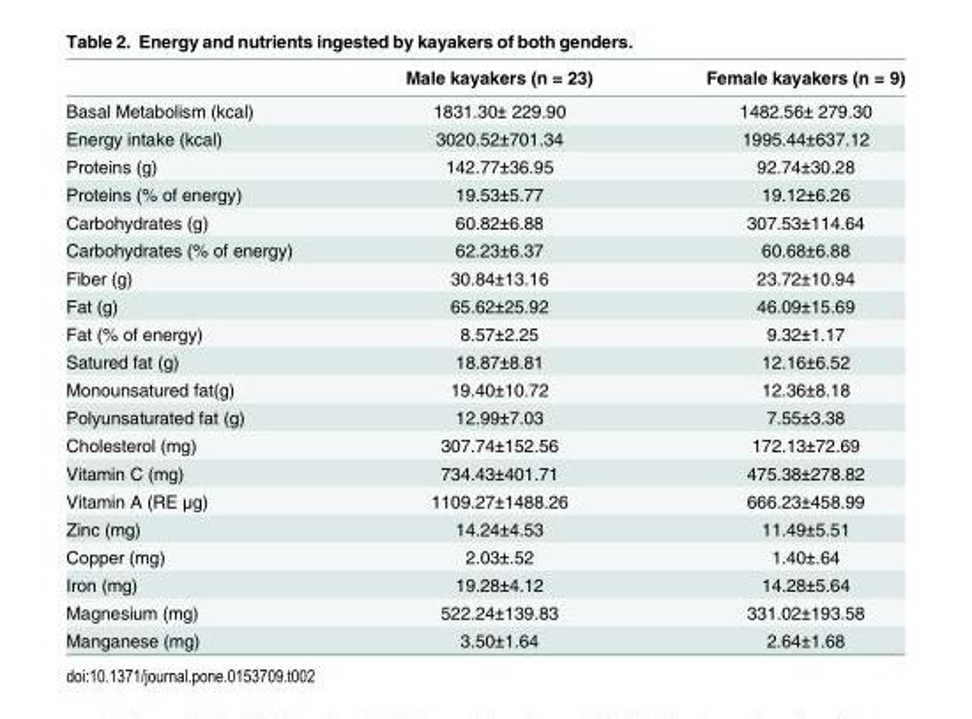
<table><thead><tr><td></td><td>Male kayakers (n = 23)</td><td>Female kayakers (n = 9)</td></tr></thead><tbody><tr><td>Basal Metabolism (kcal)</td><td>1831.30± 229.90</td><td>1482.56± 279.30</td></tr><tr><td>Energy intake (kcal)</td><td>3020.52±701.34</td><td>1995.44±637.12</td></tr><tr><td>Proteins (g)</td><td>142.77±36.95</td><td>92.74±30.28</td></tr><tr><td>Proteins (% of energy)</td><td>19.53±5.77</td><td>19.12±6.26</td></tr><tr><td>Carbohydrates (g)</td><td>60.82±6.88</td><td>307.53±114.64</td></tr><tr><td>Carbohydrates (% of energy)</td><td>62.23±6.37</td><td>60.68±6.88</td></tr><tr><td>Fiber (g)</td><td>30.84±13.16</td><td>23.72±10.94</td></tr><tr><td>Fat (g)</td><td>65.62±25.92</td><td>46.09±15.69</td></tr><tr><td>Fat (% of energy)</td><td>8.57±2.25</td><td>9.32±1.17</td></tr><tr><td>Satured fat (g)</td><td>18.87±8.81</td><td>12.16±6.52</td></tr><tr><td>Monounsatured fat(g)</td><td>19.40±10.72</td><td>12.36±8.18</td></tr><tr><td>Polyunsaturated fat (g)</td><td>12.99±7.03</td><td>7.55±3.38</td></tr><tr><td>Cholesterol (mg)</td><td>307.74±152.56</td><td>172.13±72.69</td></tr><tr><td>Vitamin C (mg)</td><td>734.43±401.71</td><td>475.38±278.82</td></tr><tr><td>Vitamin A (RE μg)</td><td>1109.27±1488.26</td><td>666.23±458.99</td></tr><tr><td>Zinc (mg)</td><td>14.24±4.53</td><td>11.49±5.51</td></tr><tr><td>Copper (mg)</td><td>2.03±.52</td><td>1.40±.64</td></tr><tr><td>Iron (mg)</td><td>19.28±4.12</td><td>14.28±5.64</td></tr><tr><td>Magnesium (mg)</td><td>522.24±139.83</td><td>331.02±193.58</td></tr><tr><td>Manganese (mg)</td><td>3.50±1.64</td><td>2.64±1.68</td></tr></tbody></table>